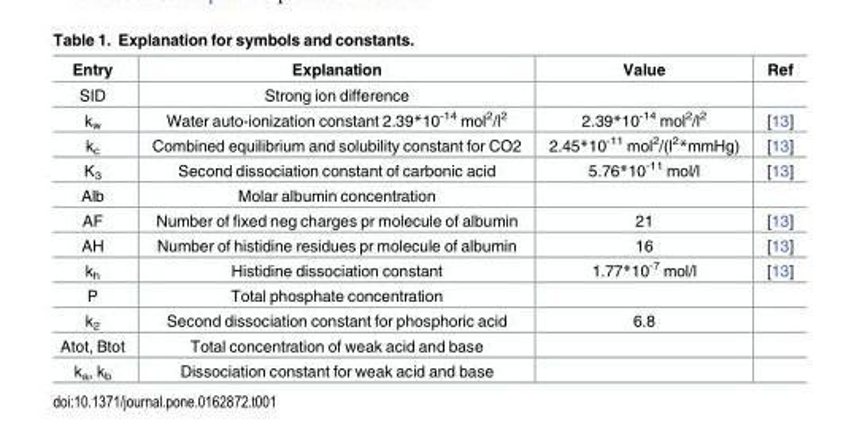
<table><thead><tr><td>Entry</td><td>Explanation</td><td>Value</td><td>Ref</td></tr></thead><tbody><tr><td>SID</td><td>Strong ion difference</td><td></td><td></td></tr><tr><td>k<sub>w</sub></td><td>Water auto-ionization constant 2.39*10<sup>-14</sup> mol<sup>2</sup>/l<sup>2</sup></td><td>2.39*10<sup>-14</sup> mol<sup>2</sup>/l<sup>2</sup></td><td>[13]</td></tr><tr><td>k<sub>c</sub></td><td>Combined equilibrium and solubility constant for CO2</td><td>2.45*10<sup>-11</sup> mol<sup>2</sup>/(l<sup>2</sup>*mmHg)</td><td>[13]</td></tr><tr><td>K<sub>3</sub></td><td>Second dissociation constant of carbonic acid</td><td>5.76*10<sup>-11</sup> mol/l</td><td>[13]</td></tr><tr><td>Alb</td><td>Molar albumin concentration</td><td></td><td></td></tr><tr><td>AF</td><td>Number of fixed neg charges pr molecule of albumin</td><td>21</td><td>[13]</td></tr><tr><td>AH</td><td>Number of histidine residues pr molecule of albumin</td><td>16</td><td>[13]</td></tr><tr><td>k<sub>h</sub></td><td>Histidine dissociation constant</td><td>1.77*10<sup>-7</sup> mol/l</td><td>[13]</td></tr><tr><td>P</td><td>Total phosphate concentration</td><td></td><td></td></tr><tr><td>k<sub>2</sub></td><td>Second dissociation constant for phosphoric acid</td><td>6.8</td><td></td></tr><tr><td>Atot, Btot</td><td>Total concentration of weak acid and base</td><td></td><td></td></tr><tr><td>k<sub>a</sub>, k<sub>b</sub></td><td>Dissociation constant for weak acid and base</td><td></td><td></td></tr></tbody></table>